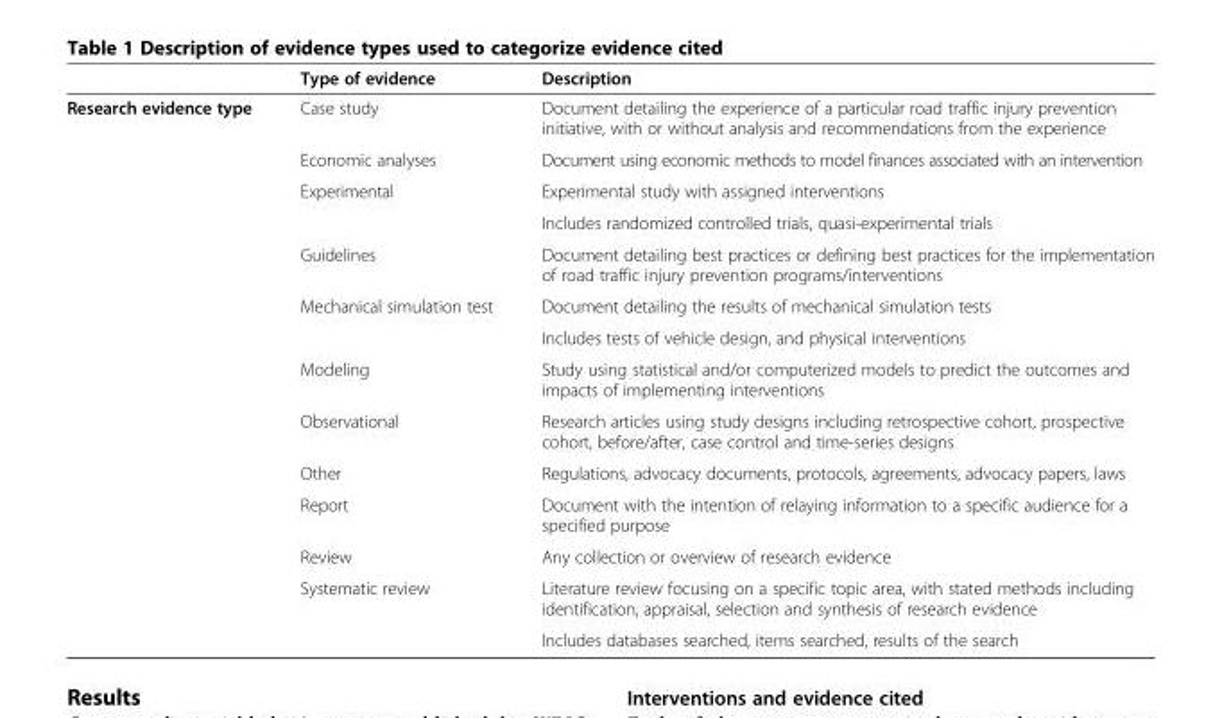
<table><thead><tr><td></td><td>Type of evidence</td><td>Description</td></tr></thead><tbody><tr><td rowspan="14">Research evidence type</td><td>Case study</td><td>Document detailing the experience of a particular road traffic injury prevention initiative, with or without analysis and recommendations from the experience</td></tr><tr><td>Economic analyses</td><td>Document using economic methods to model finances associated with an intervention</td></tr><tr><td rowspan="2">Experimental</td><td>Experimental study with assigned interventions</td></tr><tr><td>Includes randomized controlled trials, quasi-experimental trials</td></tr><tr><td>Guidelines</td><td>Document detailing best practices or defining best practices for the implementation of road traffic injury prevention programs/interventions</td></tr><tr><td rowspan="2">Mechanical simulation test</td><td>Document detailing the results of mechanical simulation tests</td></tr><tr><td>Includes tests of vehicle design, and physical interventions</td></tr><tr><td>Modeling</td><td>Study using statistical and/or computerized models to predict the outcomes and impacts of implementing interventions</td></tr><tr><td>Observational</td><td>Research articles using study designs including retrospective cohort, prospective cohort, before/after, case control and time-series designs</td></tr><tr><td>Other</td><td>Regulations, advocacy documents, protocols, agreements, advocacy papers, laws</td></tr><tr><td>Report</td><td>Document with the intention of relaying information to a specific audience for a specified purpose</td></tr><tr><td>Review</td><td>Any collection or overview of research evidence</td></tr><tr><td rowspan="2">Systematic review</td><td>Literature review focusing on a specific topic area, with stated methods including identification, appraisal, selection and synthesis of research evidence</td></tr><tr><td>Includes databases searched, items searched, results of the search</td></tr></tbody></table>